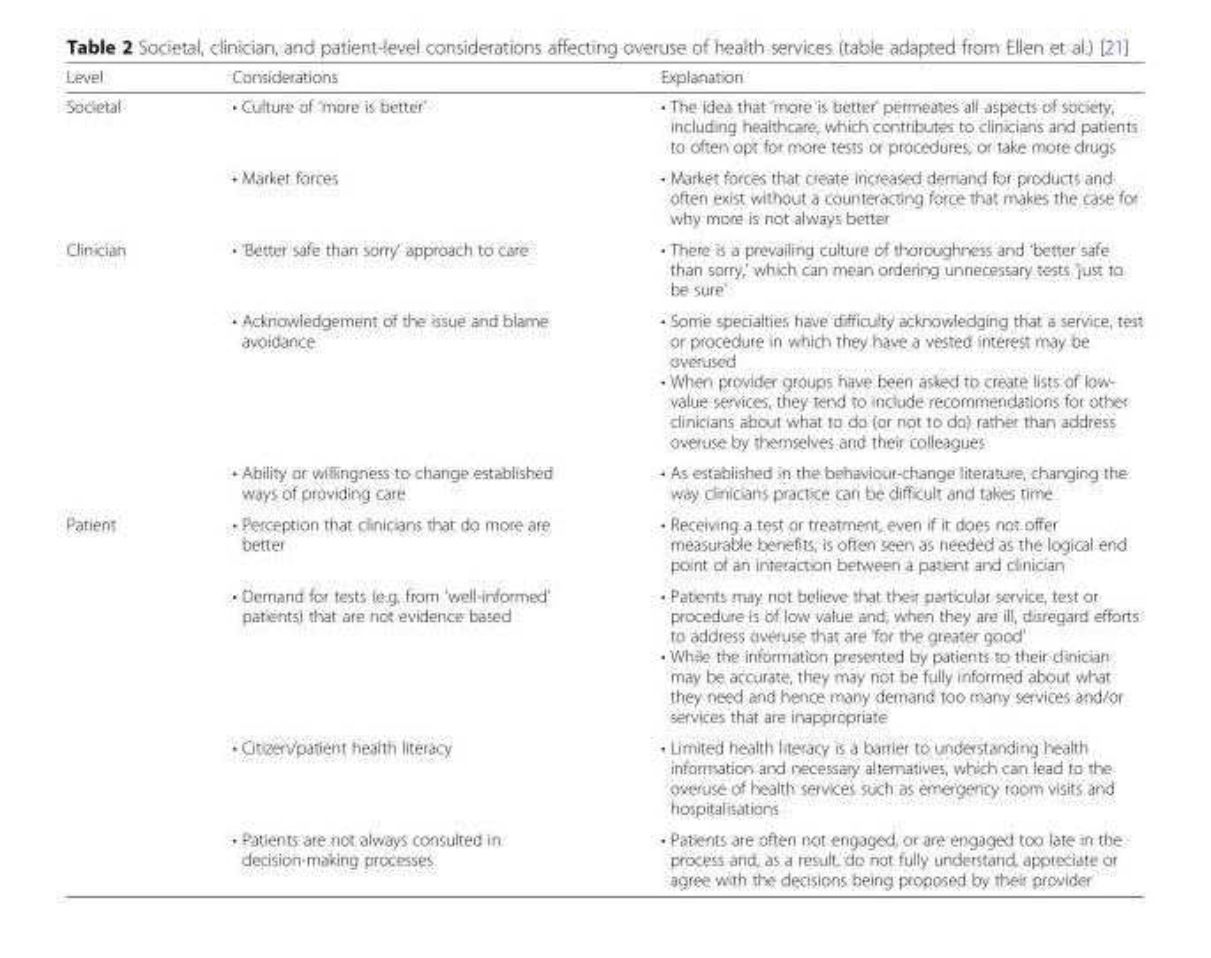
<table><thead><tr><td>Level</td><td>Considerations</td><td>Explanation</td></tr></thead><tbody><tr><td rowspan="2">Societal</td><td>• Culture of ‘more is better’</td><td>• The idea that ‘more is better’ permeates all aspects of society, including healthcare, which contributes to clinicians and patients to often opt for more tests or procedures, or take more drugs</td></tr><tr><td>• Market forces</td><td>• Market forces that create increased demand for products and often exist without a counteracting force that makes the case for why more is not always better</td></tr><tr><td rowspan="3">Clinician</td><td>• ‘Better safe than sorry’ approach to care</td><td>• There is a prevailing culture of thoroughness and ‘better safe than sorry,’ which can mean ordering unnecessary tests ‘just to be sure’</td></tr><tr><td>• Acknowledgement of the issue and blame avoidance</td><td>• Some specialties have difficulty acknowledging that a service, test or procedure in which they have a vested interest may be overused • When provider groups have been asked to create lists of low- value services, they tend to include recommendations for other clinicians about what to do (or not to do) rather than address overuse by themselves and their colleagues</td></tr><tr><td>• Ability or willingness to change established ways of providing care</td><td>• As established in the behaviour-change literature, changing the way clinicians practice can be difficult and takes time</td></tr><tr><td rowspan="4">Patient</td><td>• Perception that clinicians that do more are better</td><td>• Receiving a test or treatment, even if it does not offer measurable benefits, is often seen as needed as the logical end point of an interaction between a patient and clinician</td></tr><tr><td>• Demand for tests (e.g. from ‘well-informed’ patients) that are not evidence based</td><td>• Patients may not believe that their particular service, test or procedure is of low value and, when they are ill, disregard efforts to address overuse that are ‘for the greater good’ • While the information presented by patients to their clinician may be accurate, they may not be fully informed about what they need and hence many demand too many services and/or services that are inappropriate</td></tr><tr><td>• Citizen/patient health literacy</td><td>• Limited health literacy is a barrier to understanding health information and necessary alternatives, which can lead to the overuse of health services such as emergency room visits and hospitalisations</td></tr><tr><td>• Patients are not always consulted in decision-making processes</td><td>• Patients are often not engaged, or are engaged too late in the process and, as a result, do not fully understand, appreciate or agree with the decisions being proposed by their provider</td></tr></tbody></table>